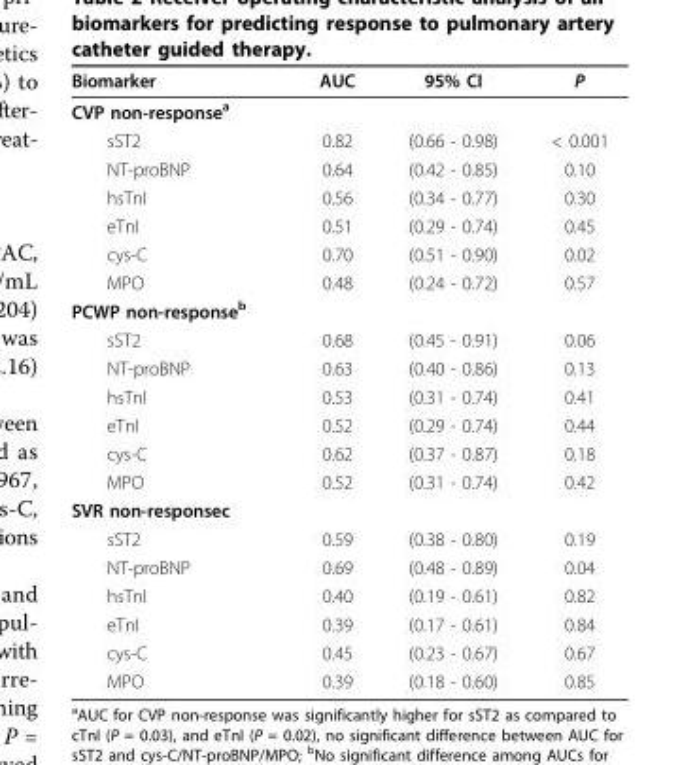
<table><thead><tr><td>Biomarker</td><td>AUC</td><td>95% CI</td><td>P</td></tr></thead><tbody><tr><td colspan="4">CVP non-response<sup>a</sup></td></tr><tr><td>sST2</td><td>0.82</td><td>(0.66 - 0.98)</td><td>&lt; 0.001</td></tr><tr><td>NT-proBNP</td><td>0.64</td><td>(0.42 - 0.85)</td><td>0.10</td></tr><tr><td>hsTnI</td><td>0.56</td><td>(0.34 - 0.77)</td><td>0.30</td></tr><tr><td>eTnI</td><td>0.51</td><td>(0.29 - 0.74)</td><td>0.45</td></tr><tr><td>cys-C</td><td>0.70</td><td>(0.51 - 0.90)</td><td>0.02</td></tr><tr><td>MPO</td><td>0.48</td><td>(0.24 - 0.72)</td><td>0.57</td></tr><tr><td colspan="4">PCWP non-response<sup>b</sup></td></tr><tr><td>sST2</td><td>0.68</td><td>(0.45 - 0.91)</td><td>0.06</td></tr><tr><td>NT-proBNP</td><td>0.63</td><td>(0.40 - 0.86)</td><td>0.13</td></tr><tr><td>hsTnI</td><td>0.53</td><td>(0.31 - 0.74)</td><td>0.41</td></tr><tr><td>eTnI</td><td>0.52</td><td>(0.29 - 0.74)</td><td>0.44</td></tr><tr><td>cys-C</td><td>0.62</td><td>(0.37 - 0.87)</td><td>0.18</td></tr><tr><td>MPO</td><td>0.52</td><td>(0.31 - 0.74)</td><td>0.42</td></tr><tr><td colspan="4">SVR non-responsec</td></tr><tr><td>sST2</td><td>0.59</td><td>(0.38 - 0.80)</td><td>0.19</td></tr><tr><td>NT-proBNP</td><td>0.69</td><td>(0.48 - 0.89)</td><td>0.04</td></tr><tr><td>hsTnI</td><td>0.40</td><td>(0.19 - 0.61)</td><td>0.82</td></tr><tr><td>eTnI</td><td>0.39</td><td>(0.17 - 0.61)</td><td>0.84</td></tr><tr><td>cys-C</td><td>0.45</td><td>(0.23 - 0.67)</td><td>0.67</td></tr><tr><td>MPO</td><td>0.39</td><td>(0.18 - 0.60)</td><td>0.85</td></tr></tbody></table>